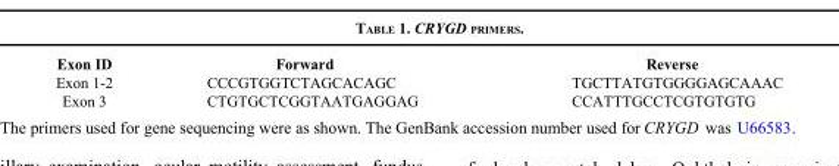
<table><thead><tr><td>Exon ID</td><td>Forward</td><td>Reverse</td></tr></thead><tbody><tr><td>Exon 1-2</td><td>CCCGTGGTCTAGCACAGC</td><td>TGCTTATGTGGGGAGCAAAC</td></tr><tr><td>Exon 3</td><td>CTGTGCTCGGTAATGAGGAG</td><td>CCATTTGCCTCGTGTGTG</td></tr></tbody></table>